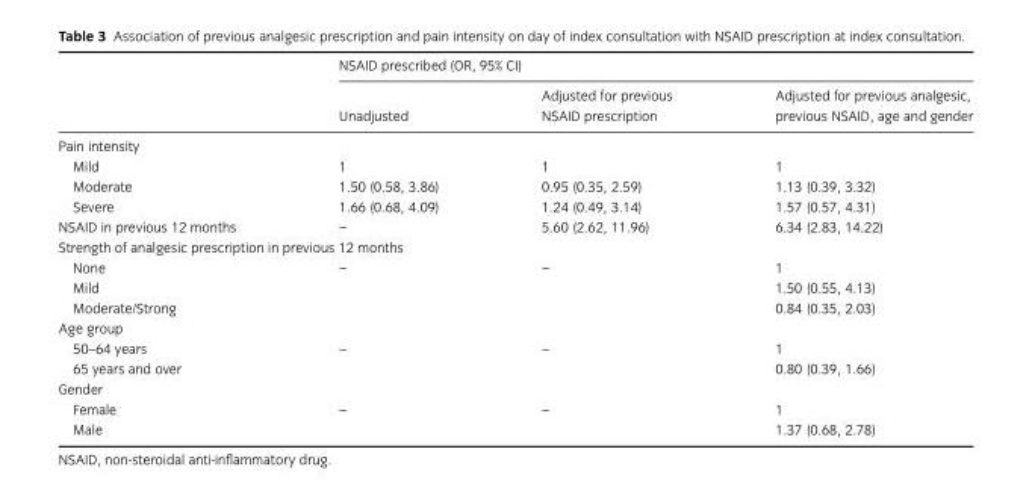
<table><thead><tr><td rowspan="2"></td><td colspan="3">NSAID prescribed (OR, 95% CI)</td></tr><tr><td>Unadjusted</td><td>Adjusted for previous NSAID prescription</td><td>Adjusted for previous analgesic, previous NSAID, age and gender</td></tr></thead><tbody><tr><td colspan="4">Pain intensity</td></tr><tr><td>Mild</td><td>1</td><td>1</td><td>1</td></tr><tr><td>Moderate</td><td>1.50 (0.58, 3.86)</td><td>0.95 (0.35, 2.59)</td><td>1.13 (0.39, 3.32)</td></tr><tr><td>Severe</td><td>1.66 (0.68, 4.09)</td><td>1.24 (0.49, 3.14)</td><td>1.57 (0.57, 4.31)</td></tr><tr><td>NSAID in previous 12 months</td><td>–</td><td>5.60 (2.62, 11.96)</td><td>6.34 (2.83, 14.22)</td></tr><tr><td colspan="4">Strength of analgesic prescription in previous 12 months</td></tr><tr><td>None</td><td>–</td><td>–</td><td>1</td></tr><tr><td>Mild</td><td></td><td></td><td>1.50 (0.55, 4.13)</td></tr><tr><td>Moderate/Strong</td><td></td><td></td><td>0.84 (0.35, 2.03)</td></tr><tr><td colspan="4">Age group</td></tr><tr><td>50–64 years</td><td>–</td><td>–</td><td>1</td></tr><tr><td>65 years and over</td><td></td><td></td><td>0.80 (0.39, 1.66)</td></tr><tr><td colspan="4">Gender</td></tr><tr><td>Female</td><td>–</td><td>–</td><td>1</td></tr><tr><td>Male</td><td></td><td></td><td>1.37 (0.68, 2.78)</td></tr></tbody></table>